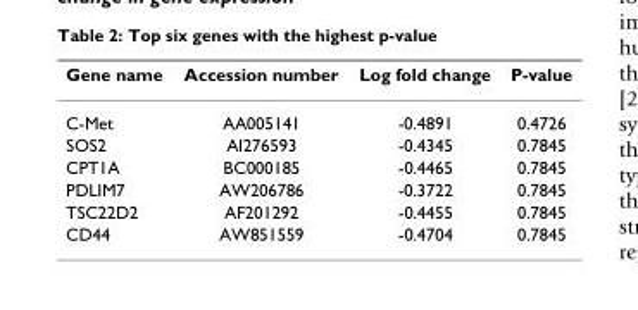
<table><thead><tr><td>Gene name</td><td>Accession number</td><td>Log fold change</td><td>P-value</td></tr></thead><tbody><tr><td>C-Met</td><td>AA005141</td><td>-0.4891</td><td>0.4726</td></tr><tr><td>SOS2</td><td>AI276593</td><td>-0.4345</td><td>0.7845</td></tr><tr><td>CPT1A</td><td>BC000185</td><td>-0.4465</td><td>0.7845</td></tr><tr><td>PDLIM7</td><td>AW206786</td><td>-0.3722</td><td>0.7845</td></tr><tr><td>TSC22D2</td><td>AF201292</td><td>-0.4455</td><td>0.7845</td></tr><tr><td>CD44</td><td>AW851559</td><td>-0.4704</td><td>0.7845</td></tr></tbody></table>